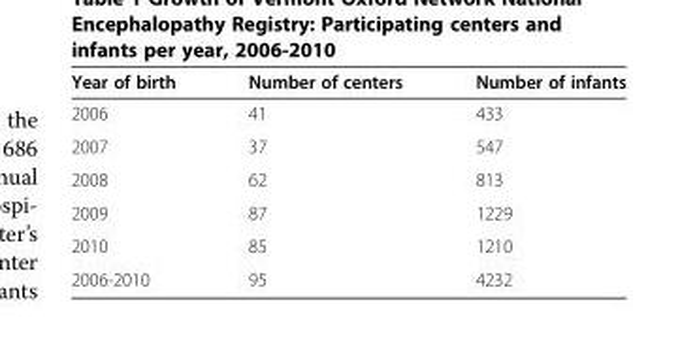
<table><thead><tr><td>Year of birth</td><td>Number of centers</td><td>Number of infants</td></tr></thead><tbody><tr><td>2006</td><td>41</td><td>433</td></tr><tr><td>2007</td><td>37</td><td>547</td></tr><tr><td>2008</td><td>62</td><td>813</td></tr><tr><td>2009</td><td>87</td><td>1229</td></tr><tr><td>2010</td><td>85</td><td>1210</td></tr><tr><td>2006-2010</td><td>95</td><td>4232</td></tr></tbody></table>